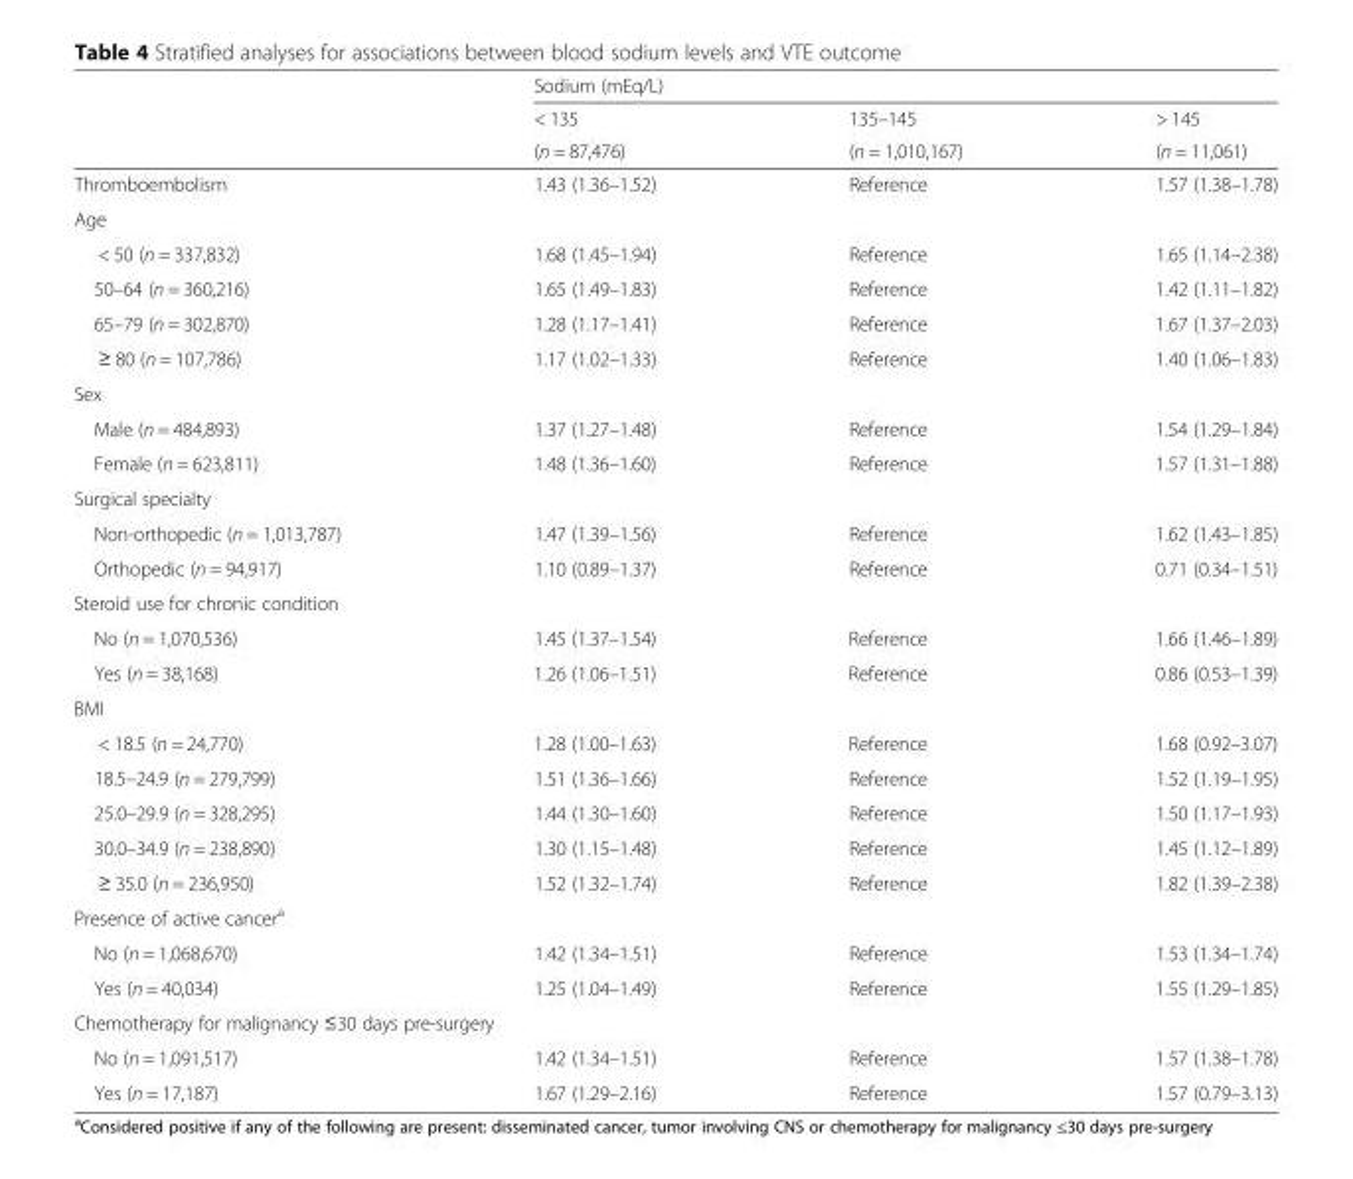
<table><thead><tr><td rowspan="3"></td><td colspan="3">Sodium (mEq/L)</td></tr><tr><td rowspan="2">&lt; 135 (n = 87,476)</td><td rowspan="2">135–145 (n = 1,010,167)</td><td rowspan="2">&gt; 145 (n = 11,061)</td></tr><tr></tr></thead><tbody><tr><td>Thromboembolism</td><td>1.43 (1.36–1.52)</td><td>Reference</td><td>1.57 (1.38–1.78)</td></tr><tr><td colspan="4">Age</td></tr><tr><td>&lt; 50 (n = 337,832)</td><td>1.68 (1.45–1.94)</td><td>Reference</td><td>1.65 (1.14–2.38)</td></tr><tr><td>50–64 (n = 360,216)</td><td>1.65 (1.49–1.83)</td><td>Reference</td><td>1.42 (1.11–1.82)</td></tr><tr><td>65–79 (n = 302,870)</td><td>1.28 (1.17–1.41)</td><td>Reference</td><td>1.67 (1.37–2.03)</td></tr><tr><td>≥ 80 (n = 107,786)</td><td>1.17 (1.02–1.33)</td><td>Reference</td><td>1.40 (1.06–1.83)</td></tr><tr><td colspan="4">Sex</td></tr><tr><td>Male (n = 484,893)</td><td>1.37 (1.27–1.48)</td><td>Reference</td><td>1.54 (1.29–1.84)</td></tr><tr><td>Female (n = 623,811)</td><td>1.48 (1.36–1.60)</td><td>Reference</td><td>1.57 (1.31–1.88)</td></tr><tr><td colspan="4">Surgical specialty</td></tr><tr><td>Non-orthopedic (n = 1,013,787)</td><td>1.47 (1.39–1.56)</td><td>Reference</td><td>1.62 (1.43–1.85)</td></tr><tr><td>Orthopedic (n = 94,917)</td><td>1.10 (0.89–1.37)</td><td>Reference</td><td>0.71 (0.34–1.51)</td></tr><tr><td colspan="4">Steroid use for chronic condition</td></tr><tr><td>No (n = 1,070,536)</td><td>1.45 (1.37–1.54)</td><td>Reference</td><td>1.66 (1.46–1.89)</td></tr><tr><td>Yes (n = 38,168)</td><td>1.26 (1.06–1.51)</td><td>Reference</td><td>0.86 (0.53–1.39)</td></tr><tr><td colspan="4">BMI</td></tr><tr><td>&lt; 18.5 (n = 24,770)</td><td>1.28 (1.00–1.63)</td><td>Reference</td><td>1.68 (0.92–3.07)</td></tr><tr><td>18.5–24.9 (n = 279,799)</td><td>1.51 (1.36–1.66)</td><td>Reference</td><td>1.52 (1.19–1.95)</td></tr><tr><td>25.0–29.9 (n = 328,295)</td><td>1.44 (1.30–1.60)</td><td>Reference</td><td>1.50 (1.17–1.93)</td></tr><tr><td>30.0–34.9 (n = 238,890)</td><td>1.30 (1.15–1.48)</td><td>Reference</td><td>1.45 (1.12–1.89)</td></tr><tr><td>≥ 35.0 (n = 236,950)</td><td>1.52 (1.32–1.74)</td><td>Reference</td><td>1.82 (1.39–2.38)</td></tr><tr><td colspan="4">Presence of active cancer<sup>a</sup></td></tr><tr><td>No (n = 1,068,670)</td><td>1.42 (1.34–1.51)</td><td>Reference</td><td>1.53 (1.34–1.74)</td></tr><tr><td>Yes (n = 40,034)</td><td>1.25 (1.04–1.49)</td><td>Reference</td><td>1.55 (1.29–1.85)</td></tr><tr><td colspan="4">Chemotherapy for malignancy ≤30 days pre-surgery</td></tr><tr><td>No (n = 1,091,517)</td><td>1.42 (1.34–1.51)</td><td>Reference</td><td>1.57 (1.38–1.78)</td></tr><tr><td>Yes (n = 17,187)</td><td>1.67 (1.29–2.16)</td><td>Reference</td><td>1.57 (0.79–3.13)</td></tr></tbody></table>